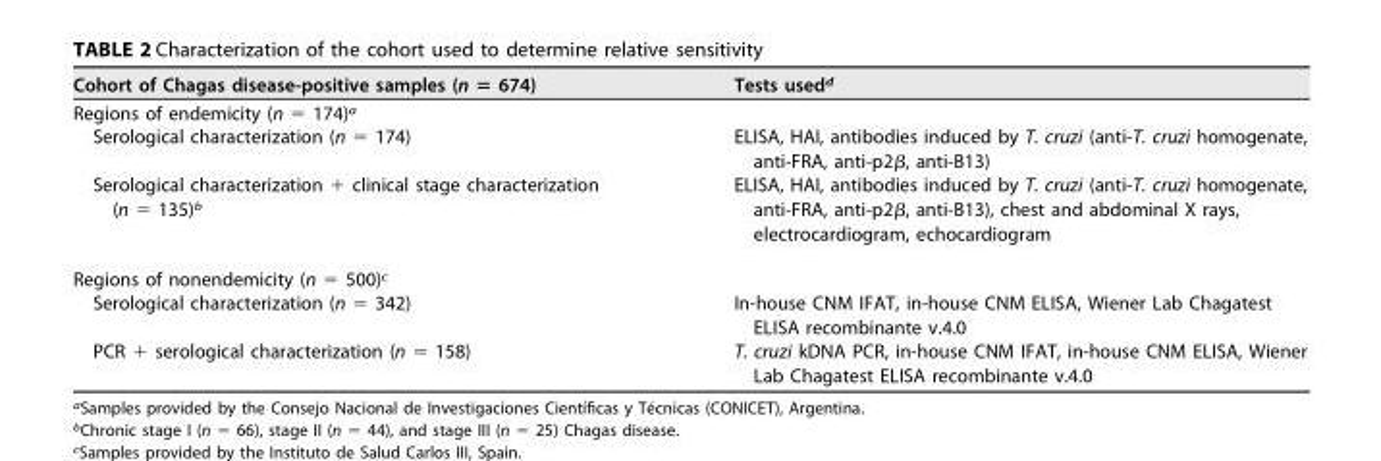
<table><thead><tr><td>Cohort of Chagas disease-positive samples (n = 674)</td><td>Tests used<sup>d</sup></td></tr></thead><tbody><tr><td colspan="2">Regions of endemicity (n = 174)<sup>a</sup></td></tr><tr><td>Serological characterization (n = 174)</td><td>ELISA, HAI, antibodies induced by T. cruzi (anti-T. cruzi homogenate, anti-FRA, anti-p2β, anti-B13)</td></tr><tr><td>Serological characterization + clinical stage characterization (n = 135)<sup>b</sup></td><td>ELISA, HAI, antibodies induced by T. cruzi (anti-T. cruzi homogenate, anti-FRA, anti-p2β, anti-B13), chest and abdominal X rays, electrocardiogram, echocardiogram</td></tr><tr><td colspan="2">Regions of nonendemicity (n = 500)<sup>c</sup></td></tr><tr><td>Serological characterization (n = 342)</td><td>In-house CNM IFAT, in-house CNM ELISA, Wiener Lab Chagatest ELISA recombinante v.4.0</td></tr><tr><td>PCR + serological characterization (n = 158)</td><td>T. cruzi kDNA PCR, in-house CNM IFAT, in-house CNM ELISA, Wiener Lab Chagatest ELISA recombinante v.4.0</td></tr></tbody></table>